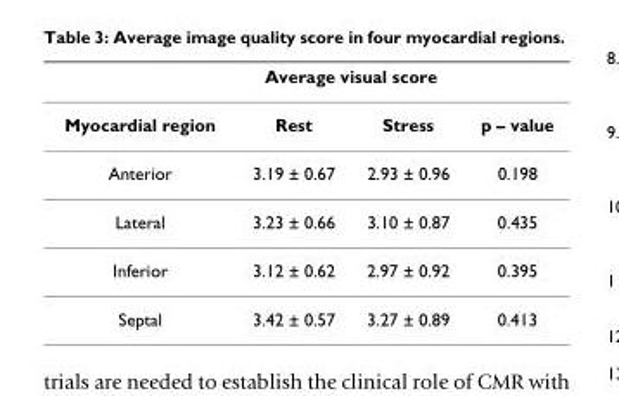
<table><thead><tr><td rowspan="2">Myocardial region</td><td colspan="2">Average visual score</td><td rowspan="2">p – value</td></tr><tr><td>Rest</td><td>Stress</td></tr></thead><tbody><tr><td>Anterior</td><td>3.19 ± 0.67</td><td>2.93 ± 0.96</td><td>0.198</td></tr><tr><td>Lateral</td><td>3.23 ± 0.66</td><td>3.10 ± 0.87</td><td>0.435</td></tr><tr><td>Inferior</td><td>3.12 ± 0.62</td><td>2.97 ± 0.92</td><td>0.395</td></tr><tr><td>Septal</td><td>3.42 ± 0.57</td><td>3.27 ± 0.89</td><td>0.413</td></tr></tbody></table>